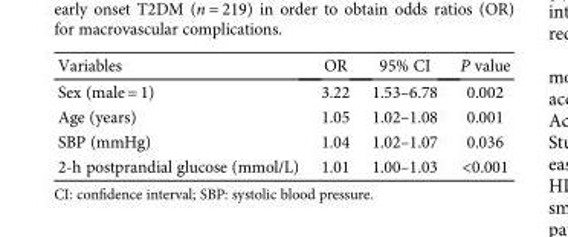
<table><thead><tr><td>Variables</td><td>OR</td><td>95% CI</td><td>P value</td></tr></thead><tbody><tr><td>Sex (male = 1)</td><td>3.22</td><td>1.53–6.78</td><td>0.002</td></tr><tr><td>Age (years)</td><td>1.05</td><td>1.02–1.08</td><td>0.001</td></tr><tr><td>SBP (mmHg)</td><td>1.04</td><td>1.02–1.07</td><td>0.036</td></tr><tr><td>2-h postprandial glucose (mmol/L)</td><td>1.01</td><td>1.00–1.03</td><td>&lt;0.001</td></tr></tbody></table>